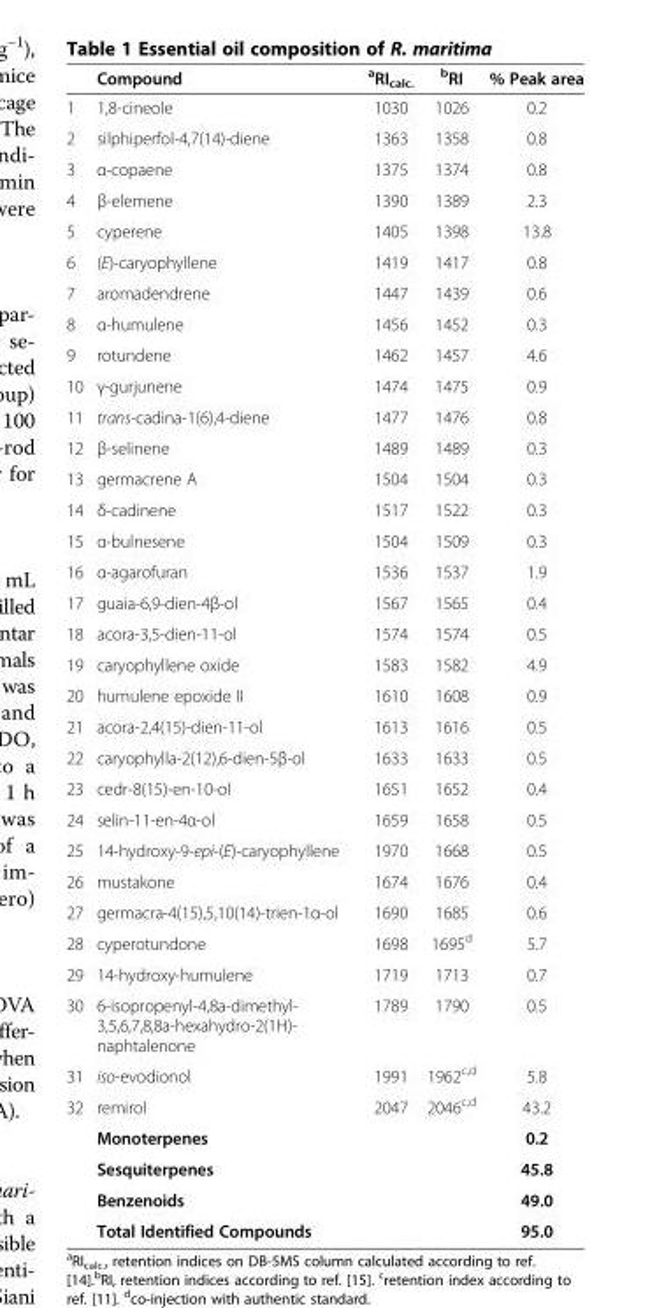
<table><thead><tr><td></td><td>Compound</td><td><sup>a</sup>RI<sub>calc.</sub></td><td><sup>b</sup>RI</td><td>% Peak area</td></tr></thead><tbody><tr><td>1</td><td>1,8-cineole</td><td>1030</td><td>1026</td><td>0.2</td></tr><tr><td>2</td><td>silphiperfol-4,7(14)-diene</td><td>1363</td><td>1358</td><td>0.8</td></tr><tr><td>3</td><td>α-copaene</td><td>1375</td><td>1374</td><td>0.8</td></tr><tr><td>4</td><td>β-elemene</td><td>1390</td><td>1389</td><td>2.3</td></tr><tr><td>5</td><td>cyperene</td><td>1405</td><td>1398</td><td>13.8</td></tr><tr><td>6</td><td>(E)-caryophyllene</td><td>1419</td><td>1417</td><td>0.8</td></tr><tr><td>7</td><td>aromadendrene</td><td>1447</td><td>1439</td><td>0.6</td></tr><tr><td>8</td><td>α-humulene</td><td>1456</td><td>1452</td><td>0.3</td></tr><tr><td>9</td><td>rotundene</td><td>1462</td><td>1457</td><td>4.6</td></tr><tr><td>10</td><td>γ-gurjunene</td><td>1474</td><td>1475</td><td>0.9</td></tr><tr><td>11</td><td>trans-cadina-1(6),4-diene</td><td>1477</td><td>1476</td><td>0.8</td></tr><tr><td>12</td><td>β-selinene</td><td>1489</td><td>1489</td><td>0.3</td></tr><tr><td>13</td><td>germacrene A</td><td>1504</td><td>1504</td><td>0.3</td></tr><tr><td>14</td><td>δ-cadinene</td><td>1517</td><td>1522</td><td>0.3</td></tr><tr><td>15</td><td>α-bulnesene</td><td>1504</td><td>1509</td><td>0.3</td></tr><tr><td>16</td><td>α-agarofuran</td><td>1536</td><td>1537</td><td>1.9</td></tr><tr><td>17</td><td>guaia-6,9-dien-4β-ol</td><td>1567</td><td>1565</td><td>0.4</td></tr><tr><td>18</td><td>acora-3,5-dien-11-ol</td><td>1574</td><td>1574</td><td>0.5</td></tr><tr><td>19</td><td>caryophyllene oxide</td><td>1583</td><td>1582</td><td>4.9</td></tr><tr><td>20</td><td>humulene epoxide II</td><td>1610</td><td>1608</td><td>0.9</td></tr><tr><td>21</td><td>acora-2,4(15)-dien-11-ol</td><td>1613</td><td>1616</td><td>0.5</td></tr><tr><td>22</td><td>caryophylla-2(12),6-dien-5β-ol</td><td>1633</td><td>1633</td><td>0.5</td></tr><tr><td>23</td><td>cedr-8(15)-en-10-ol</td><td>1651</td><td>1652</td><td>0.4</td></tr><tr><td>24</td><td>selin-11-en-4α-ol</td><td>1659</td><td>1658</td><td>0.5</td></tr><tr><td>25</td><td>14-hydroxy-9-epi-(E)-caryophyllene</td><td>1970</td><td>1668</td><td>0.5</td></tr><tr><td>26</td><td>mustakone</td><td>1674</td><td>1676</td><td>0.4</td></tr><tr><td>27</td><td>germacra-4(15),5,10(14)-trien-1α-ol</td><td>1690</td><td>1685</td><td>0.6</td></tr><tr><td>28</td><td>cyperotundone</td><td>1698</td><td>1695<sup>d</sup></td><td>5.7</td></tr><tr><td>29</td><td>14-hydroxy-humulene</td><td>1719</td><td>1713</td><td>0.7</td></tr><tr><td>30</td><td>6-isopropenyl-4,8a-dimethyl- 3,5,6,7,8,8a-hexahydro-2(1H)- naphtalenone</td><td>1789</td><td>1790</td><td>0.5</td></tr><tr><td>31</td><td>iso-evodionol</td><td>1991</td><td>1962<sup>c,d</sup></td><td>5.8</td></tr><tr><td rowspan="5">32</td><td>remirol</td><td>2047</td><td>2046<sup>c,d</sup></td><td>43.2</td></tr><tr><td>Monoterpenes</td><td colspan="2"></td><td>0.2</td></tr><tr><td>Sesquiterpenes</td><td colspan="2"></td><td>45.8</td></tr><tr><td>Benzenoids</td><td colspan="2"></td><td>49.0</td></tr><tr><td>Total Identified Compounds</td><td colspan="2"></td><td>95.0</td></tr></tbody></table>